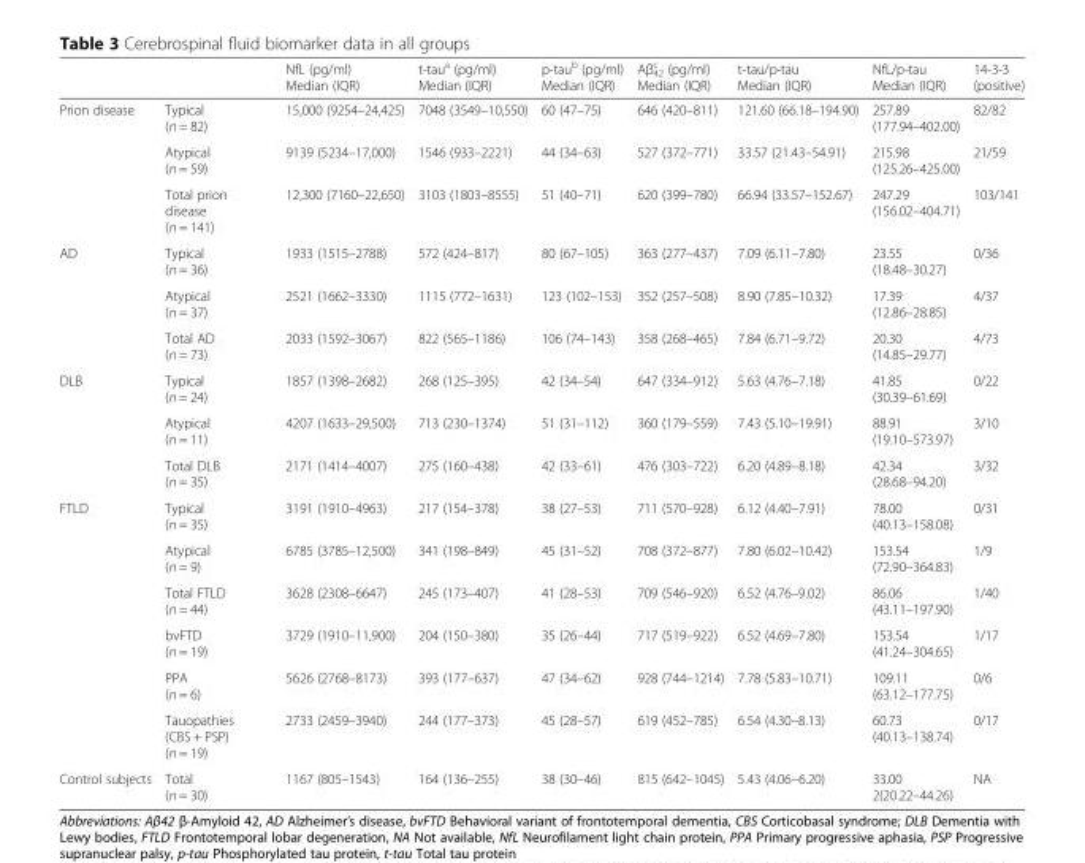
<table><thead><tr><td></td><td></td><td>NfL (pg/ml) Median (IQR)</td><td>t-tau<sup>a</sup> (pg/ml) Median (IQR)</td><td>p-tau<sup>b</sup> (pg/ml) Median (IQR)</td><td>Aβ<sub>42</sub> <sup>c</sup> (pg/ml) Median (IQR)</td><td>t-tau/p-tau Median (IQR)</td><td>NfL/p-tau Median (IQR)</td><td>14-3-3 (positive)</td></tr></thead><tbody><tr><td rowspan="3">Prion disease</td><td>Typical (n = 82)</td><td>15,000 (9254–24,425)</td><td>7048 (3549–10,550)</td><td>60 (47–75)</td><td>646 (420–811)</td><td>121.60 (66.18–194.90)</td><td>257.89 (177.94–402.00)</td><td>82/82</td></tr><tr><td>Atypical (n = 59)</td><td>9139 (5234–17,000)</td><td>1546 (933–2221)</td><td>44 (34–63)</td><td>527 (372–771)</td><td>33.57 (21.43–54.91)</td><td>215.98 (125.26–425.00)</td><td>21/59</td></tr><tr><td>Total prion disease (n = 141)</td><td>12,300 (7160–22,650)</td><td>3103 (1803–8555)</td><td>51 (40–71)</td><td>620 (399–780)</td><td>66.94 (33.57–152.67)</td><td>247.29 (156.02–404.71)</td><td>103/141</td></tr><tr><td rowspan="3">AD</td><td>Typical (n = 36)</td><td>1933 (1515–2788)</td><td>572 (424–817)</td><td>80 (67–105)</td><td>363 (277–437)</td><td>7.09 (6.11–7.80)</td><td>23.55 (18.48–30.27)</td><td>0/36</td></tr><tr><td>Atypical (n = 37)</td><td>2521 (1662–3330)</td><td>1115 (772–1631)</td><td>123 (102–153)</td><td>352 (257–508)</td><td>8.90 (7.85–10.32)</td><td>17.39 (12.86–28.85)</td><td>4/37</td></tr><tr><td>Total AD (n = 73)</td><td>2033 (1592–3067)</td><td>822 (565–1186)</td><td>106 (74–143)</td><td>358 (268–465)</td><td>7.84 (6.71–9.72)</td><td>20.30 (14.85–29.77)</td><td>4/73</td></tr><tr><td rowspan="3">DLB</td><td>Typical (n = 24)</td><td>1857 (1398–2682)</td><td>268 (125–395)</td><td>42 (34–54)</td><td>647 (334–912)</td><td>5.63 (4.76–7.18)</td><td>41.85 (30.39–61.69)</td><td>0/22</td></tr><tr><td>Atypical (n = 11)</td><td>4207 (1633–29,500)</td><td>713 (230–1374)</td><td>51 (31–112)</td><td>360 (179–559)</td><td>7.43 (5.10–19.91)</td><td>88.91 (19.10–573.97)</td><td>3/10</td></tr><tr><td>Total DLB (n = 35)</td><td>2171 (1414–4007)</td><td>275 (160–438)</td><td>42 (33–61)</td><td>476 (303–722)</td><td>6.20 (4.89–8.18)</td><td>42.34 (28.68–94.20)</td><td>3/32</td></tr><tr><td rowspan="6">FTLD</td><td>Typical (n = 35)</td><td>3191 (1910–4963)</td><td>217 (154–378)</td><td>38 (27–53)</td><td>711 (570–928)</td><td>6.12 (4.40–7.91)</td><td>78.00 (40.13–158.08)</td><td>0/31</td></tr><tr><td>Atypical (n = 9)</td><td>6785 (3785–12,500)</td><td>341 (198–849)</td><td>45 (31–52)</td><td>708 (372–877)</td><td>7.80 (6.02–10.42)</td><td>153.54 (72.90–364.83)</td><td>1/9</td></tr><tr><td>Total FTLD (n = 44)</td><td>3628 (2308–6647)</td><td>245 (173–407)</td><td>41 (28–53)</td><td>709 (546–920)</td><td>6.52 (4.76–9.02)</td><td>86.06 (43.11–197.90)</td><td>1/40</td></tr><tr><td>bvFTD (n = 19)</td><td>3729 (1910–11,900)</td><td>204 (150–380)</td><td>35 (26–44)</td><td>717 (519–922)</td><td>6.52 (4.69–7.80)</td><td>153.54 (41.24–304.65)</td><td>1/17</td></tr><tr><td>PPA (n = 6)</td><td>5626 (2768–8173)</td><td>393 (177–637)</td><td>47 (34–62)</td><td>928 (744–1214)</td><td>7.78 (5.83–10.71)</td><td>109.11 (63.12–177.75)</td><td>0/6</td></tr><tr><td>Tauopathies (CBS + PSP) (n = 19)</td><td>2733 (2459–3940)</td><td>244 (177–373)</td><td>45 (28–57)</td><td>619 (452–785)</td><td>6.54 (4.30–8.13)</td><td>60.73 (40.13–138.74)</td><td>0/17</td></tr><tr><td>Control subjects</td><td>Total (n = 30)</td><td>1167 (805–1543)</td><td>164 (136–255)</td><td>38 (30–46)</td><td>815 (642–1045)</td><td>5.43 (4.06–6.20)</td><td>33.00 2(20.22–44.26)</td><td>NA</td></tr></tbody></table>